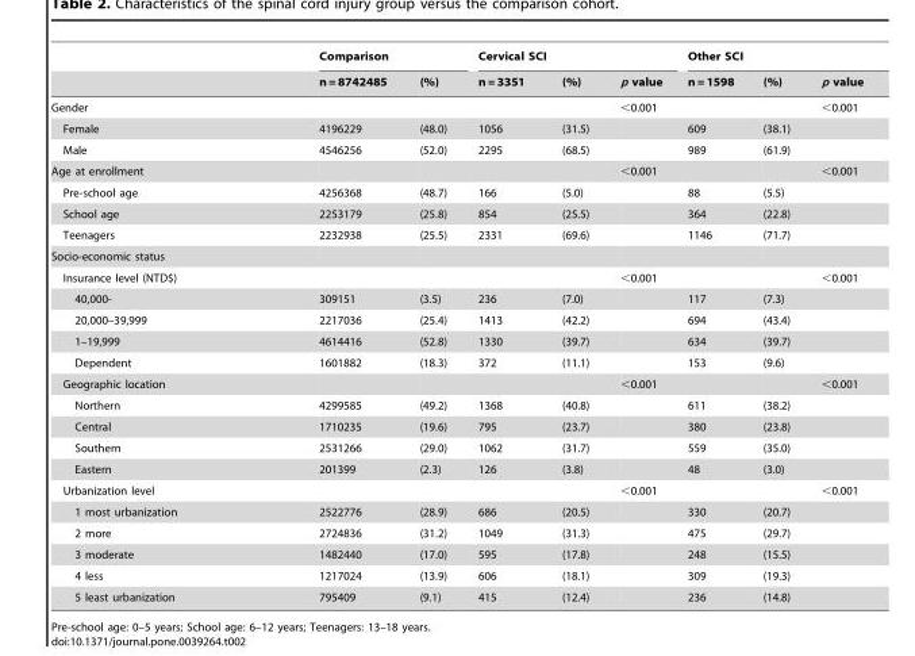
<table><thead><tr><td rowspan="2"></td><td colspan="2">Comparison</td><td colspan="3">Cervical SCI</td><td colspan="3">Other SCI</td></tr><tr><td>n = 8742485</td><td>(%)</td><td>n = 3351</td><td>(%)</td><td>p value</td><td>n = 1598</td><td>(%)</td><td>p value</td></tr></thead><tbody><tr><td>Gender</td><td></td><td></td><td></td><td></td><td>&lt;0.001</td><td></td><td></td><td>&lt;0.001</td></tr><tr><td>Female</td><td>4196229</td><td>(48.0)</td><td>1056</td><td>(31.5)</td><td></td><td>609</td><td>(38.1)</td><td></td></tr><tr><td>Male</td><td>4546256</td><td>(52.0)</td><td>2295</td><td>(68.5)</td><td></td><td>989</td><td>(61.9)</td><td></td></tr><tr><td>Age at enrollment</td><td></td><td></td><td></td><td></td><td>&lt;0.001</td><td></td><td></td><td>&lt;0.001</td></tr><tr><td>Pre-school age</td><td>4256368</td><td>(48.7)</td><td>166</td><td>(5.0)</td><td></td><td>88</td><td>(5.5)</td><td></td></tr><tr><td>School age</td><td>2253179</td><td>(25.8)</td><td>854</td><td>(25.5)</td><td></td><td>364</td><td>(22.8)</td><td></td></tr><tr><td>Teenagers</td><td>2232938</td><td>(25.5)</td><td>2331</td><td>(69.6)</td><td></td><td>1146</td><td>(71.7)</td><td></td></tr><tr><td colspan="9">Socio-economic status</td></tr><tr><td>Insurance level (NTD$)</td><td></td><td></td><td></td><td></td><td>&lt;0.001</td><td></td><td></td><td>&lt;0.001</td></tr><tr><td>40,000-</td><td>309151</td><td>(3.5)</td><td>236</td><td>(7.0)</td><td></td><td>117</td><td>(7.3)</td><td></td></tr><tr><td>20,000–39,999</td><td>2217036</td><td>(25.4)</td><td>1413</td><td>(42.2)</td><td></td><td>694</td><td>(43.4)</td><td></td></tr><tr><td>1–19,999</td><td>4614416</td><td>(52.8)</td><td>1330</td><td>(39.7)</td><td></td><td>634</td><td>(39.7)</td><td></td></tr><tr><td>Dependent</td><td>1601882</td><td>(18.3)</td><td>372</td><td>(11.1)</td><td></td><td>153</td><td>(9.6)</td><td></td></tr><tr><td>Geographic location</td><td></td><td></td><td></td><td></td><td>&lt;0.001</td><td></td><td></td><td>&lt;0.001</td></tr><tr><td>Northern</td><td>4299585</td><td>(49.2)</td><td>1368</td><td>(40.8)</td><td></td><td>611</td><td>(38.2)</td><td></td></tr><tr><td>Central</td><td>1710235</td><td>(19.6)</td><td>795</td><td>(23.7)</td><td></td><td>380</td><td>(23.8)</td><td></td></tr><tr><td>Southern</td><td>2531266</td><td>(29.0)</td><td>1062</td><td>(31.7)</td><td></td><td>559</td><td>(35.0)</td><td></td></tr><tr><td>Eastern</td><td>201399</td><td>(2.3)</td><td>126</td><td>(3.8)</td><td></td><td>48</td><td>(3.0)</td><td></td></tr><tr><td>Urbanization level</td><td></td><td></td><td></td><td></td><td>&lt;0.001</td><td></td><td></td><td>&lt;0.001</td></tr><tr><td>1 most urbanization</td><td>2522776</td><td>(28.9)</td><td>686</td><td>(20.5)</td><td></td><td>330</td><td>(20.7)</td><td></td></tr><tr><td>2 more</td><td>2724836</td><td>(31.2)</td><td>1049</td><td>(31.3)</td><td></td><td>475</td><td>(29.7)</td><td></td></tr><tr><td>3 moderate</td><td>1482440</td><td>(17.0)</td><td>595</td><td>(17.8)</td><td></td><td>248</td><td>(15.5)</td><td></td></tr><tr><td>4 less</td><td>1217024</td><td>(13.9)</td><td>606</td><td>(18.1)</td><td></td><td>309</td><td>(19.3)</td><td></td></tr><tr><td>5 least urbanization</td><td>795409</td><td>(9.1)</td><td>415</td><td>(12.4)</td><td></td><td>236</td><td>(14.8)</td><td></td></tr></tbody></table>